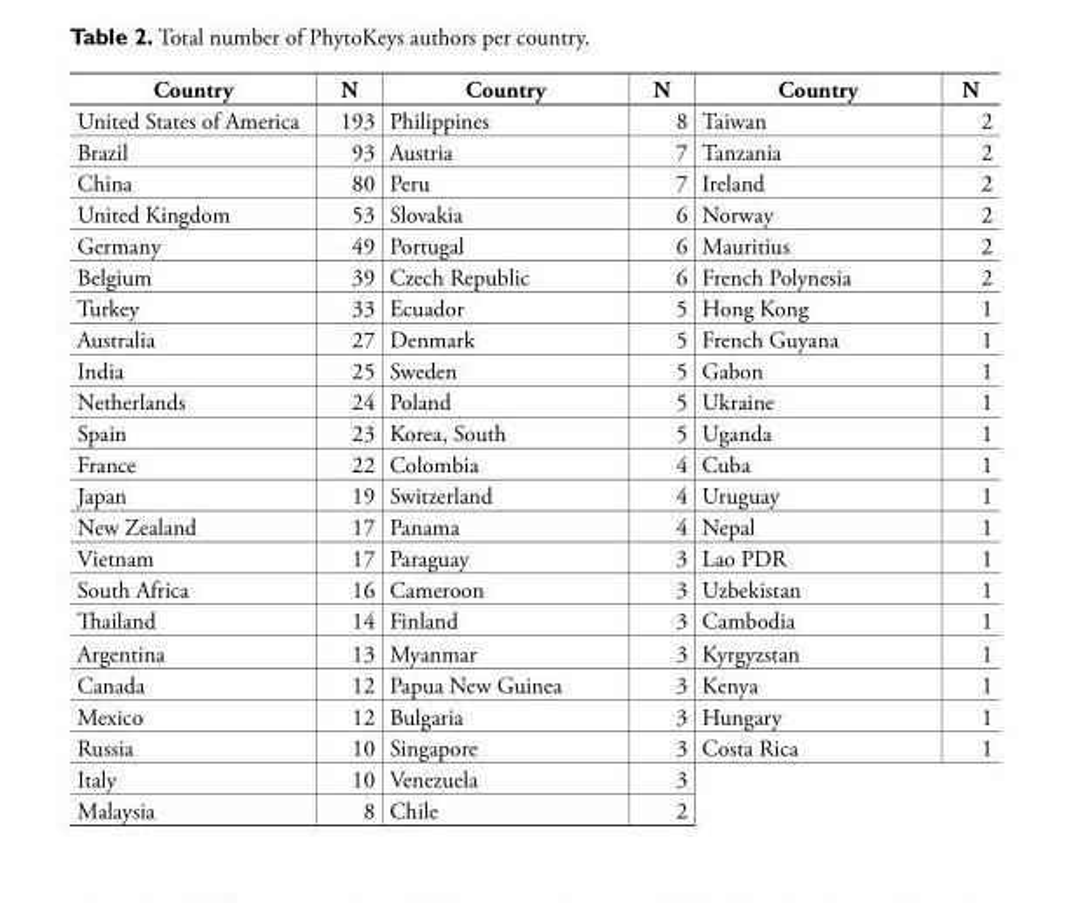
<table><tbody><tr><td>Country</td><td>N</td><td>Country</td><td>N</td><td>Country</td><td>N</td></tr><tr><td>United States of America</td><td>193</td><td>Philippines</td><td>8</td><td>Taiwan</td><td>2</td></tr><tr><td>Brazil</td><td>93</td><td>Austria</td><td>7</td><td>Tanzania</td><td>2</td></tr><tr><td>China</td><td>80</td><td>Peru</td><td>7</td><td>Ireland</td><td>2</td></tr><tr><td>United Kingdom</td><td>53</td><td>Slovakia</td><td>6</td><td>Norway</td><td>2</td></tr><tr><td>Germany</td><td>49</td><td>Portugal</td><td>6</td><td>Mauritius</td><td>2</td></tr><tr><td>Belgium</td><td>39</td><td>Czech Republic</td><td>6</td><td>French Polynesia</td><td>2</td></tr><tr><td>Turkey</td><td>33</td><td>Ecuador</td><td>5</td><td>Hong Kong</td><td>1</td></tr><tr><td>Australia</td><td>27</td><td>Denmark</td><td>5</td><td>French Guyana</td><td>1</td></tr><tr><td>India</td><td>25</td><td>Sweden</td><td>5</td><td>Gabon</td><td>1</td></tr><tr><td>Netherlands</td><td>24</td><td>Poland</td><td>5</td><td>Ukraine</td><td>1</td></tr><tr><td>Spain</td><td>23</td><td>Korea, South</td><td>5</td><td>Uganda</td><td>1</td></tr><tr><td>France</td><td>22</td><td>Colombia</td><td>4</td><td>Cuba</td><td>1</td></tr><tr><td>Japan</td><td>19</td><td>Switzerland</td><td>4</td><td>Uruguay</td><td>1</td></tr><tr><td>New Zealand</td><td>17</td><td>Panama</td><td>4</td><td>Nepal</td><td>1</td></tr><tr><td>Vietnam</td><td>17</td><td>Paraguay</td><td>3</td><td>Lao PDR</td><td>1</td></tr><tr><td>South Africa</td><td>16</td><td>Cameroon</td><td>3</td><td>Uzbekistan</td><td>1</td></tr><tr><td>Thailand</td><td>14</td><td>Finland</td><td>3</td><td>Cambodia</td><td>1</td></tr><tr><td>Argentina</td><td>13</td><td>Myanmar</td><td>3</td><td>Kyrgyzstan</td><td>1</td></tr><tr><td>Canada</td><td>12</td><td>Papua New Guinea</td><td>3</td><td>Kenya</td><td>1</td></tr><tr><td>Mexico</td><td>12</td><td>Bulgaria</td><td>3</td><td>Hungary</td><td>1</td></tr><tr><td>Russia</td><td>10</td><td>Singapore</td><td>3</td><td>Costa Rica</td><td>1</td></tr><tr><td>Italy</td><td>10</td><td>Venezuela</td><td>3</td><td rowspan="2" colspan="2"></td></tr><tr><td>Malaysia</td><td>8</td><td>Chile</td><td>2</td></tr></tbody></table>